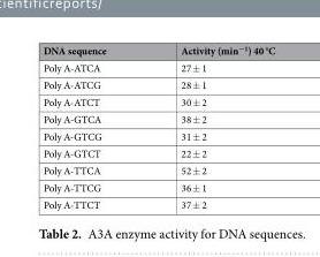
<table><thead><tr><td>DNA sequence</td><td>Activity (min<sup>−1</sup>) 40 °C</td></tr></thead><tbody><tr><td>Poly A-ATCA</td><td>27 ± 1</td></tr><tr><td>Poly A-ATCG</td><td>28 ± 1</td></tr><tr><td>Poly A-ATCT</td><td>30 ± 2</td></tr><tr><td>Poly A-GTCA</td><td>38 ± 2</td></tr><tr><td>Poly A-GTCG</td><td>31 ± 2</td></tr><tr><td>Poly A-GTCT</td><td>22 ± 2</td></tr><tr><td>Poly A-TTCA</td><td>52 ± 2</td></tr><tr><td>Poly A-TTCG</td><td>36 ± 1</td></tr><tr><td>Poly A-TTCT</td><td>37 ± 2</td></tr></tbody></table>